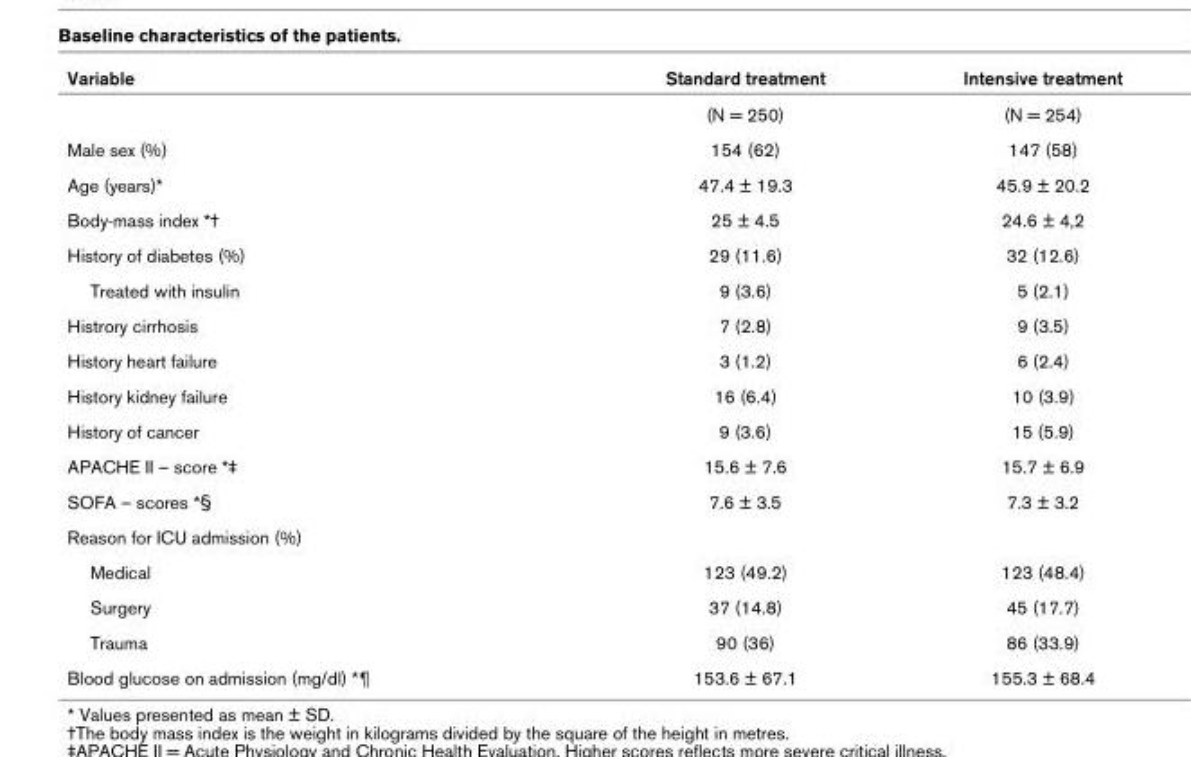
<table><thead><tr><td>Variable</td><td>Standard treatment</td><td>Intensive treatment</td></tr></thead><tbody><tr><td></td><td>(N = 250)</td><td>(N = 254)</td></tr><tr><td>Male sex (%)</td><td>154 (62)</td><td>147 (58)</td></tr><tr><td>Age (years)*</td><td>47.4 ± 19.3</td><td>45.9 ± 20.2</td></tr><tr><td>Body-mass index *†</td><td>25 ± 4.5</td><td>24.6 ± 4,2</td></tr><tr><td>History of diabetes (%)</td><td>29 (11.6)</td><td>32 (12.6)</td></tr><tr><td>Treated with insulin</td><td>9 (3.6)</td><td>5 (2.1)</td></tr><tr><td>Histrory cirrhosis</td><td>7 (2.8)</td><td>9 (3.5)</td></tr><tr><td>History heart failure</td><td>3 (1.2)</td><td>6 (2.4)</td></tr><tr><td>History kidney failure</td><td>16 (6.4)</td><td>10 (3.9)</td></tr><tr><td>History of cancer</td><td>9 (3.6)</td><td>15 (5.9)</td></tr><tr><td>APACHE II – score *‡</td><td>15.6 ± 7.6</td><td>15.7 ± 6.9</td></tr><tr><td>SOFA – scores *§</td><td>7.6 ± 3.5</td><td>7.3 ± 3.2</td></tr><tr><td colspan="3">Reason for ICU admission (%)</td></tr><tr><td>Medical</td><td>123 (49.2)</td><td>123 (48.4)</td></tr><tr><td>Surgery</td><td>37 (14.8)</td><td>45 (17.7)</td></tr><tr><td>Trauma</td><td>90 (36)</td><td>86 (33.9)</td></tr><tr><td>Blood glucose on admission (mg/dl) *¶</td><td>153.6 ± 67.1</td><td>155.3 ± 68.4</td></tr></tbody></table>